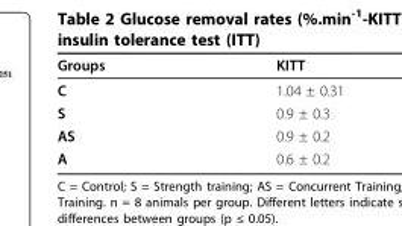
<table><thead><tr><td>Groups</td><td>KITT</td></tr></thead><tbody><tr><td>C</td><td>1.04 ± 0.31</td></tr><tr><td>S</td><td>0.9 ± 0.3</td></tr><tr><td>AS</td><td>0.9 ± 0.2</td></tr><tr><td>A</td><td>0.6 ± 0.2</td></tr></tbody></table>